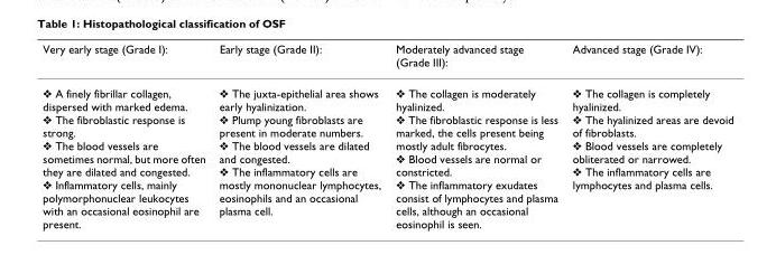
<table><thead><tr><td>Very early stage (Grade I):</td><td>Early stage (Grade II):</td><td>Moderately advanced stage (Grade III):</td><td>Advanced stage (Grade IV):</td></tr></thead><tbody><tr><td>❖ A finely fibrillar collagen, dispersed with marked edema. ❖ The fibroblastic response is strong. ❖ The blood vessels are sometimes normal, but more often they are dilated and congested. ❖ Inflammatory cells, mainly polymorphonuclear leukocytes with an occasional eosinophil are present.</td><td>❖ The juxta-epithelial area shows early hyalinization. ❖ Plump young fibroblasts are present in moderate numbers. ❖ The blood vessels are dilated and congested. ❖ The inflammatory cells are mostly mononuclear lymphocytes, eosinophils and an occasional plasma cell.</td><td>❖ The collagen is moderately hyalinized. ❖ The fibroblastic response is less marked, the cells present being mostly adult fibrocytes. ❖ Blood vessels are normal or constricted. ❖ The inflammatory exudates consist of lymphocytes and plasma cells, although an occasional eosinophil is seen.</td><td>❖ The collagen is completely hyalinized. ❖ The hyalinized areas are devoid of fibroblasts. ❖ Blood vessels are completely obliterated or narrowed. ❖ The inflammatory cells are lymphocytes and plasma cells.</td></tr></tbody></table>